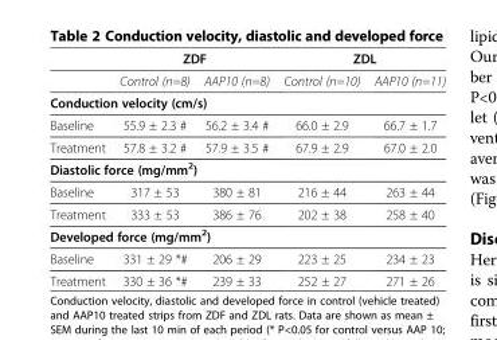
<table><thead><tr><td rowspan="2"></td><td colspan="2">ZDF</td><td colspan="2">ZDL</td></tr><tr><td>Control (n=8)</td><td>AAP10 (n=8)</td><td>Control (n=10)</td><td>AAP10 (n=11)</td></tr></thead><tbody><tr><td colspan="5">Conduction velocity (cm/s)</td></tr><tr><td>Baseline</td><td>55.9 ± 2.3 #</td><td>56.2 ± 3.4 #</td><td>66.0 ± 2.9</td><td>66.7 ± 1.7</td></tr><tr><td>Treatment</td><td>57.8 ± 3.2 #</td><td>57.9 ± 3.5 #</td><td>67.9 ± 2.9</td><td>67.0 ± 2.0</td></tr><tr><td colspan="5">Diastolic force (mg/mm<sup>2</sup>)</td></tr><tr><td>Baseline</td><td>317 ± 53</td><td>380 ± 81</td><td>216 ± 44</td><td>263 ± 44</td></tr><tr><td>Treatment</td><td>333 ± 53</td><td>386 ± 76</td><td>202 ± 38</td><td>258 ± 40</td></tr><tr><td colspan="5">Developed force (mg/mm<sup>2</sup>)</td></tr><tr><td>Baseline</td><td>331 ± 29 *#</td><td>206 ± 29</td><td>223 ± 25</td><td>234 ± 23</td></tr><tr><td>Treatment</td><td>330 ± 36 *#</td><td>239 ± 33</td><td>252 ± 27</td><td>271 ± 26</td></tr></tbody></table>